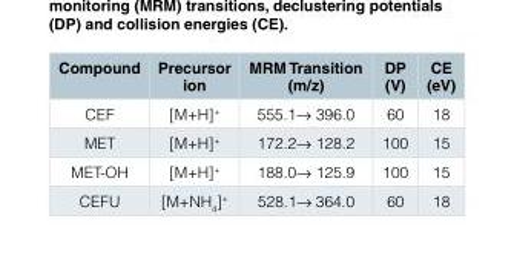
<table><thead><tr><td>Compound</td><td>Precursor ion</td><td>MRM Transition (m/z)</td><td>DP (V)</td><td>CE (eV)</td></tr></thead><tbody><tr><td>CEF</td><td>[M+H]<sup>+</sup></td><td>555.1→ 396.0</td><td>60</td><td>18</td></tr><tr><td>MET</td><td>[M+H]<sup>+</sup></td><td>172.2→ 128.2</td><td>100</td><td>15</td></tr><tr><td>MET-OH</td><td>[M+H]<sup>+</sup></td><td>188.0→ 125.9</td><td>100</td><td>15</td></tr><tr><td>CEFU</td><td>[M+NH<sub>4</sub>]<sup>+</sup></td><td>528.1→ 364.0</td><td>60</td><td>18</td></tr></tbody></table>